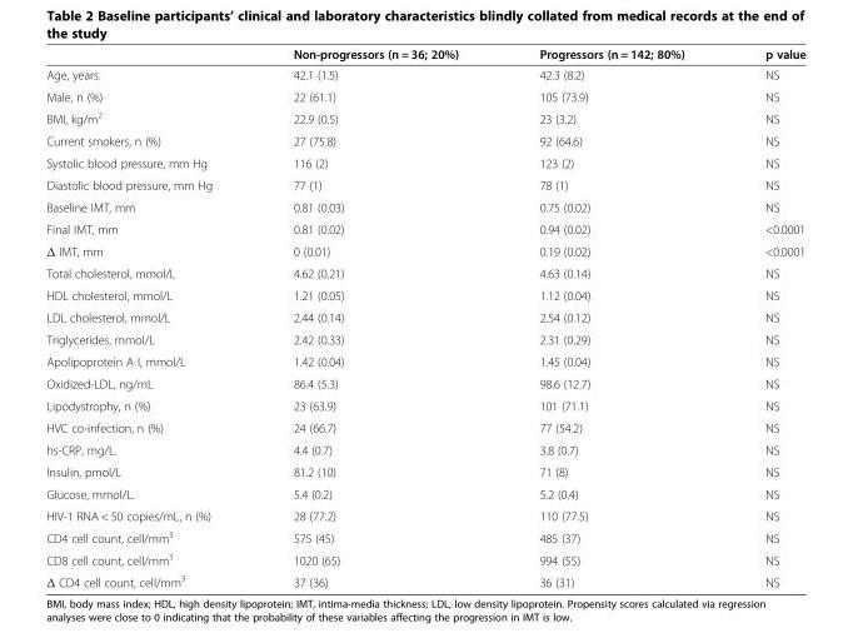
<table><thead><tr><td></td><td>Non-progressors (n = 36; 20%)</td><td>Progressors (n = 142; 80%)</td><td>p value</td></tr></thead><tbody><tr><td>Age, years.</td><td>42.1 (1.5)</td><td>42.3 (8.2)</td><td>NS</td></tr><tr><td>Male, n (%)</td><td>22 (61.1)</td><td>105 (73.9)</td><td>NS</td></tr><tr><td>BMI, kg/m<sup>2</sup></td><td>22.9 (0.5)</td><td>23 (3.2)</td><td>NS</td></tr><tr><td>Current smokers, n (%)</td><td>27 (75.8)</td><td>92 (64.6)</td><td>NS</td></tr><tr><td>Systolic blood pressure, mm Hg</td><td>116 (2)</td><td>123 (2)</td><td>NS</td></tr><tr><td>Diastolic blood pressure, mm Hg</td><td>77 (1)</td><td>78 (1)</td><td>NS</td></tr><tr><td>Baseline IMT, mm</td><td>0.81 (0.03)</td><td>0.75 (0.02)</td><td>NS</td></tr><tr><td>Final IMT, mm</td><td>0.81 (0.02)</td><td>0.94 (0.02)</td><td>&lt;0.0001</td></tr><tr><td>Δ IMT, mm</td><td>0 (0.01)</td><td>0.19 (0.02)</td><td>&lt;0.0001</td></tr><tr><td>Total cholesterol, mmol/L</td><td>4.62 (0.21)</td><td>4.63 (0.14)</td><td>NS</td></tr><tr><td>HDL cholesterol, mmol/L</td><td>1.21 (0.05)</td><td>1.12 (0.04)</td><td>NS</td></tr><tr><td>LDL cholesterol, mmol/L</td><td>2.44 (0.14)</td><td>2.54 (0.12)</td><td>NS</td></tr><tr><td>Triglycerides, mmol/L</td><td>2.42 (0.33)</td><td>2.31 (0.29)</td><td>NS</td></tr><tr><td>Apolipoprotein A I, mmol/L</td><td>1.42 (0.04)</td><td>1.45 (0.04)</td><td>NS</td></tr><tr><td>Oxidized-LDL, ng/mL</td><td>86.4 (5.3)</td><td>98.6 (12.7)</td><td>NS</td></tr><tr><td>Lipodystrophy, n (%)</td><td>23 (63.9)</td><td>101 (71.1)</td><td>NS</td></tr><tr><td>HVC co-infection, n (%)</td><td>24 (66.7)</td><td>77 (54.2)</td><td>NS</td></tr><tr><td>hs-CRP, mg/L.</td><td>4.4 (0.7)</td><td>3.8 (0.7)</td><td>NS</td></tr><tr><td>Insulin, pmol/L</td><td>81.2 (10)</td><td>71 (8)</td><td>NS</td></tr><tr><td>Glucose, mmol/L.</td><td>5.4 (0.2)</td><td>5.2 (0.4)</td><td>NS</td></tr><tr><td>HIV-1 RNA &lt; 50 copies/mL, n (%)</td><td>28 (77.2)</td><td>110 (77.5)</td><td>NS</td></tr><tr><td>CD4 cell count, cell/mm<sup>3</sup></td><td>575 (45)</td><td>485 (37)</td><td>NS</td></tr><tr><td>CD8 cell count, cell/mm<sup>3</sup></td><td>1020 (65)</td><td>994 (55)</td><td>NS</td></tr><tr><td>Δ CD4 cell count, cell/mm<sup>3</sup></td><td>37 (36)</td><td>36 (31)</td><td>NS</td></tr></tbody></table>